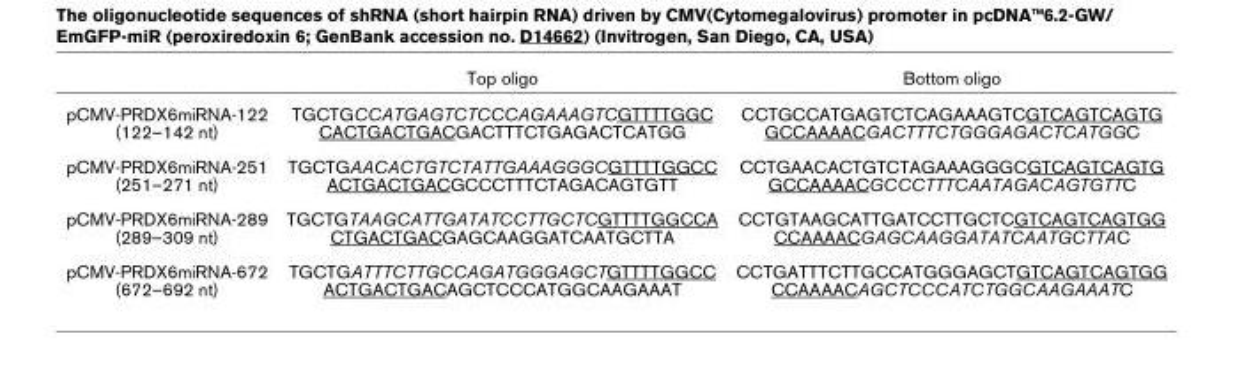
<table><thead><tr><td></td><td>Top oligo</td><td>Bottom oligo</td></tr></thead><tbody><tr><td>pCMV-PRDX6miRNA-122 (122–142 nt)</td><td>TGCTGCCATGAGTCTCCCAGAAAGTCGTTTTGGC CACTGACTGACGACTTTCTGAGACTCATGG</td><td>CCTGCCATGAGTCTCAGAAAGTCGTCAGTCAGTG GCCAAAACGACTTTCTGGGAGACTCATGGC</td></tr><tr><td>pCMV-PRDX6miRNA-251 (251–271 nt)</td><td>TGCTGAACACTGTCTATTGAAAGGGCGTTTTGGCC ACTGACTGACGCCCTTTCTAGACAGTGTT</td><td>CCTGAACACTGTCTAGAAAGGGCGTCAGTCAGTG GCCAAAACGCCCTTTCAATAGACAGTGTTC</td></tr><tr><td>pCMV-PRDX6miRNA-289 (289–309 nt)</td><td>TGCTGTAAGCATTGATATCCTTGCTCGTTTTGGCCA CTGACTGACGAGCAAGGATCAATGCTTA</td><td>CCTGTAAGCATTGATCCTTGCTCGTCAGTCAGTGG CCAAAACGAGCAAGGATATCAATGCTTAC</td></tr><tr><td>pCMV-PRDX6miRNA-672 (672–692 nt)</td><td>TGCTGATTTCTTGCCAGATGGGAGCTGTTTTGGCC ACTGACTGACAGCTCCCATGGCAAGAAAT</td><td>CCTGATTTCTTGCCATGGGAGCTGTCAGTCAGTGG CCAAAACAGCTCCCATCTGGCAAGAAATC</td></tr></tbody></table>